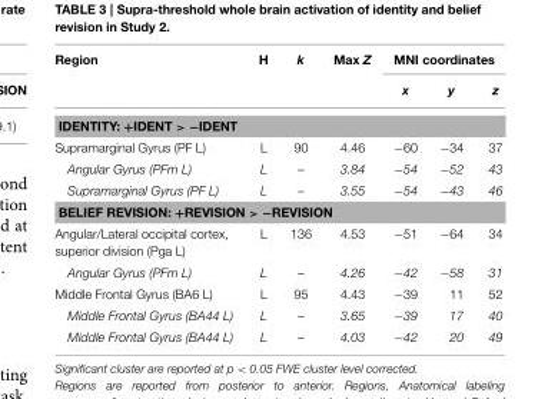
<table><thead><tr><td rowspan="2">Region</td><td rowspan="2">H</td><td rowspan="2">k</td><td rowspan="2">Max Z</td><td colspan="3">MNI coordinates</td></tr><tr><td>x</td><td>y</td><td>z</td></tr></thead><tbody><tr><td colspan="7">IDENTITY: +IDENT &gt; −IDENT</td></tr><tr><td>Supramarginal Gyrus (PF L)</td><td>L</td><td>90</td><td>4.46</td><td>−60</td><td>−34</td><td>37</td></tr><tr><td>Angular Gyrus (PFm L)</td><td>L</td><td>–</td><td>3.84</td><td>−54</td><td>−52</td><td>43</td></tr><tr><td>Supramarginal Gyrus (PF L)</td><td>L</td><td>–</td><td>3.55</td><td>−54</td><td>−43</td><td>46</td></tr><tr><td colspan="7">BELIEF REVISION: +REVISION &gt; −REVISION</td></tr><tr><td>Angular/Lateral occipital cortex, superior division (Pga L)</td><td>L</td><td>136</td><td>4.53</td><td>−51</td><td>−64</td><td>34</td></tr><tr><td>Angular Gyrus (PFm L)</td><td>L</td><td>–</td><td>4.26</td><td>−42</td><td>−58</td><td>31</td></tr><tr><td>Middle Frontal Gyrus (BA6 L)</td><td>L</td><td>95</td><td>4.43</td><td>−39</td><td>11</td><td>52</td></tr><tr><td>Middle Frontal Gyrus (BA44 L)</td><td>L</td><td>–</td><td>3.65</td><td>−39</td><td>17</td><td>40</td></tr><tr><td>Middle Frontal Gyrus (BA44 L)</td><td>L</td><td>–</td><td>4.03</td><td>−42</td><td>20</td><td>49</td></tr></tbody></table>